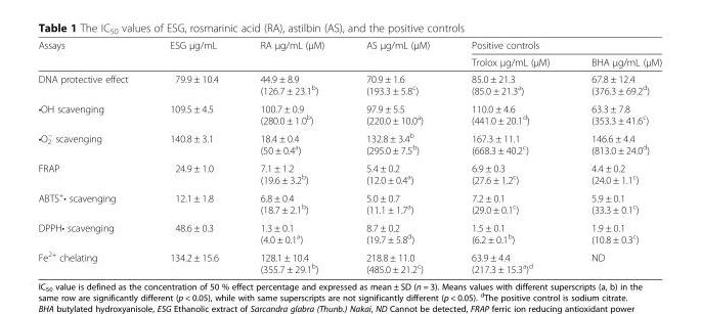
<table><thead><tr><td rowspan="2">Assays</td><td rowspan="2">ESG μg/mL</td><td rowspan="2">RA μg/mL (μM)</td><td rowspan="2">AS μg/mL (μM)</td><td colspan="2">Positive controls</td></tr><tr><td>Trolox μg/mL (μM)</td><td>BHA μg/mL (μM)</td></tr></thead><tbody><tr><td>DNA protective effect</td><td>79.9 ± 10.4</td><td>44.9 ± 8.9 (126.7 ± 23.1<sup>b</sup>)</td><td>70.9 ± 1.6 (193.3 ± 5.8<sup>c</sup>)</td><td>85.0 ± 21.3 (85.0 ± 21.3<sup>a</sup>)</td><td>67.8 ± 12.4 (376.3 ± 69.2<sup>d</sup>)</td></tr><tr><td>•OH scavenging</td><td>109.5 ± 4.5</td><td>100.7 ± 0.9 (280.0 ± 1.0<sup>b</sup>)</td><td>97.9 ± 5.5 (220.0 ± 10.0<sup>a</sup>)</td><td>110.0 ± 4.6 (441.0 ± 20.1<sup>d</sup>)</td><td>63.3 ± 7.8 (353.3 ± 41.6<sup>c</sup>)</td></tr><tr><td>•O<sub>2</sub> <sup>−</sup> scavenging</td><td>140.8 ± 3.1</td><td>18.4 ± 0.4 (50 ± 0.4<sup>a</sup>)</td><td>132.8 ± 3.4<sup>b</sup> (295.0 ± 7.5<sup>b</sup>)</td><td>167.3 ± 11.1 (668.3 ± 40.2<sup>c</sup>)</td><td>146.6 ± 4.4 (813.0 ± 24.0<sup>d</sup>)</td></tr><tr><td>FRAP</td><td>24.9 ± 1.0</td><td>7.1 ± 1.2 (19.6 ± 3.2<sup>b</sup>)</td><td>5.4 ± 0.2 (12.0 ± 0.4<sup>a</sup>)</td><td>6.9 ± 0.3 (27.6 ± 1.2<sup>c</sup>)</td><td>4.4 ± 0.2 (24.0 ± 1.1<sup>c</sup>)</td></tr><tr><td>ABTS<sup>+</sup>• scavenging</td><td>12.1 ± 1.8</td><td>6.8 ± 0.4 (18.7 ± 2.1<sup>b</sup>)</td><td>5.0 ± 0.7 (11.1 ± 1.7<sup>a</sup>)</td><td>7.2 ± 0.1 (29.0 ± 0.1<sup>c</sup>)</td><td>5.9 ± 0.1 (33.3 ± 0.1<sup>c</sup>)</td></tr><tr><td>DPPH• scavenging</td><td>48.6 ± 0.3</td><td>1.3 ± 0.1 (4.0 ± 0.1<sup>a</sup>)</td><td>8.7 ± 0.2 (19.7 ± 5.8<sup>d</sup>)</td><td>1.5 ± 0.1 (6.2 ± 0.1<sup>b</sup>)</td><td>1.9 ± 0.1 (10.8 ± 0.3<sup>c</sup>)</td></tr><tr><td>Fe<sup>2+</sup> chelating</td><td>134.2 ± 15.6</td><td>128.1 ± 10.4 (355.7 ± 29.1<sup>b</sup>)</td><td>218.8 ± 11.0 (485.0 ± 21.2<sup>c</sup>)</td><td>63.9 ± 4.4 (217.3 ± 15.3<sup>a</sup>)<sup>d</sup></td><td>ND</td></tr></tbody></table>